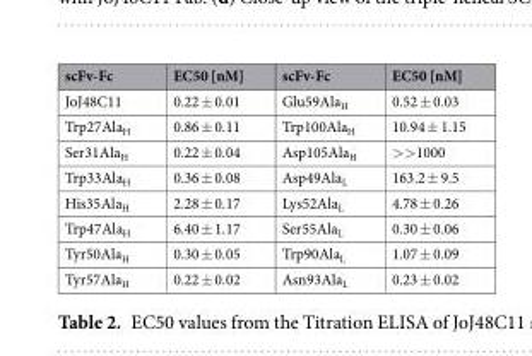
<table><thead><tr><td>scFv-Fc</td><td>EC50 [nM]</td><td>scFv-Fc</td><td>EC50 [nM]</td></tr></thead><tbody><tr><td>JoJ48C11</td><td>0.22 ± 0.01</td><td>Glu59Ala<sub>H</sub></td><td>0.52 ± 0.03</td></tr><tr><td>Trp27Ala<sub>H</sub></td><td>0.86 ± 0.11</td><td>Trp100Ala<sub>H</sub></td><td>10.94 ± 1.15</td></tr><tr><td>Ser31Ala<sub>H</sub></td><td>0.22 ± 0.04</td><td>Asp105Ala<sub>H</sub></td><td>&gt;&gt;1000</td></tr><tr><td>Trp33Ala<sub>H</sub></td><td>0.36 ± 0.08</td><td>Asp49Ala<sub>L</sub></td><td>163.2 ± 9.5</td></tr><tr><td>His35Ala<sub>H</sub></td><td>2.28 ± 0.17</td><td>Lys52Ala<sub>L</sub></td><td>4.78 ± 0.26</td></tr><tr><td>Trp47Ala<sub>H</sub></td><td>6.40 ± 1.17</td><td>Ser55Ala<sub>L</sub></td><td>0.30 ± 0.06</td></tr><tr><td>Tyr50Ala<sub>H</sub></td><td>0.30 ± 0.05</td><td>Trp90Ala<sub>L</sub></td><td>1.07 ± 0.09</td></tr><tr><td>Tyr57Ala<sub>H</sub></td><td>0.22 ± 0.02</td><td>Asn93Ala<sub>L</sub></td><td>0.23 ± 0.02</td></tr></tbody></table>